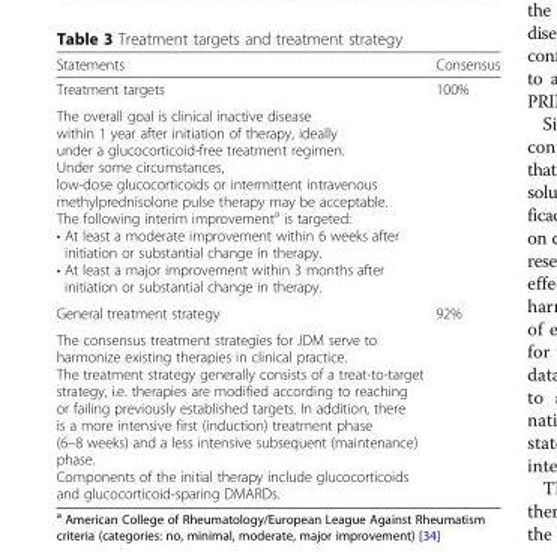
<table><thead><tr><td>Statements</td><td>Consensus</td></tr></thead><tbody><tr><td>Treatment targets</td><td rowspan="2">100%</td></tr><tr><td>The overall goal is clinical inactive disease within 1 year after initiation of therapy, ideally under a glucocorticoid-free treatment regimen. Under some circumstances, low-dose glucocorticoids or intermittent intravenous methylprednisolone pulse therapy may be acceptable. The following interim improvement<sup>a</sup> is targeted: • At least a moderate improvement within 6 weeks after initiation or substantial change in therapy. • At least a major improvement within 3 months after initiation or substantial change in therapy.</td></tr><tr><td>General treatment strategy</td><td rowspan="2">92%</td></tr><tr><td>The consensus treatment strategies for JDM serve to harmonize existing therapies in clinical practice. The treatment strategy generally consists of a treat-to-target strategy, i.e. therapies are modified according to reaching or failing previously established targets. In addition, there is a more intensive first (induction) treatment phase (6–8 weeks) and a less intensive subsequent (maintenance) phase. Components of the initial therapy include glucocorticoids and glucocorticoid-sparing DMARDs.</td></tr></tbody></table>